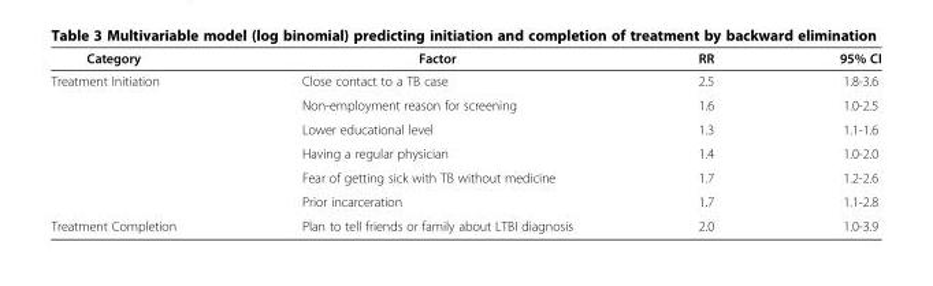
<table><thead><tr><td>Category</td><td>Factor</td><td>RR</td><td>95% CI</td></tr></thead><tbody><tr><td rowspan="6">Treatment Initiation</td><td>Close contact to a TB case</td><td>2.5</td><td>1.8-3.6</td></tr><tr><td>Non-employment reason for screening</td><td>1.6</td><td>1.0-2.5</td></tr><tr><td>Lower educational level</td><td>1.3</td><td>1.1-1.6</td></tr><tr><td>Having a regular physician</td><td>1.4</td><td>1.0-2.0</td></tr><tr><td>Fear of getting sick with TB without medicine</td><td>1.7</td><td>1.2-2.6</td></tr><tr><td>Prior incarceration</td><td>1.7</td><td>1.1-2.8</td></tr><tr><td>Treatment Completion</td><td>Plan to tell friends or family about LTBI diagnosis</td><td>2.0</td><td>1.0-3.9</td></tr></tbody></table>